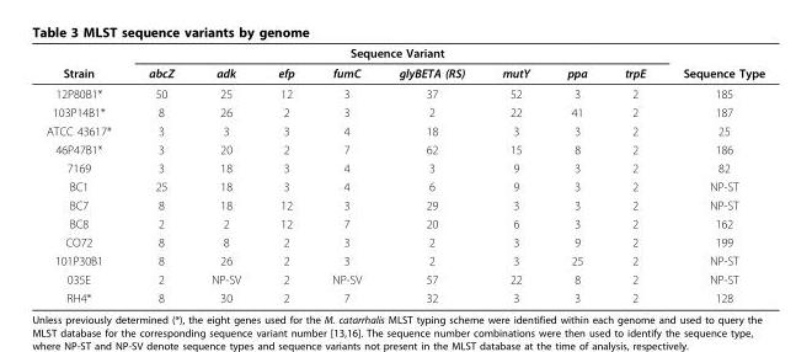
<table><thead><tr><td rowspan="2">Strain</td><td colspan="8">Sequence Variant</td><td rowspan="2">Sequence Type</td></tr><tr><td>abcZ</td><td>adk</td><td>efp</td><td>fumC</td><td>glyBETA (RS)</td><td>mutY</td><td>ppa</td><td>trpE</td></tr></thead><tbody><tr><td>12P80B1*</td><td>50</td><td>25</td><td>12</td><td>3</td><td>37</td><td>52</td><td>3</td><td>2</td><td>185</td></tr><tr><td>103P14B1*</td><td>8</td><td>26</td><td>2</td><td>3</td><td>2</td><td>22</td><td>41</td><td>2</td><td>187</td></tr><tr><td>ATCC 43617*</td><td>3</td><td>3</td><td>3</td><td>4</td><td>18</td><td>3</td><td>3</td><td>2</td><td>25</td></tr><tr><td>46P47B1*</td><td>3</td><td>20</td><td>2</td><td>7</td><td>62</td><td>15</td><td>8</td><td>2</td><td>186</td></tr><tr><td>7169</td><td>3</td><td>18</td><td>3</td><td>4</td><td>3</td><td>9</td><td>3</td><td>2</td><td>82</td></tr><tr><td>BC1</td><td>25</td><td>18</td><td>3</td><td>4</td><td>6</td><td>9</td><td>3</td><td>2</td><td>NP-ST</td></tr><tr><td>BC7</td><td>8</td><td>18</td><td>12</td><td>3</td><td>29</td><td>3</td><td>3</td><td>2</td><td>NP-ST</td></tr><tr><td>BC8</td><td>2</td><td>2</td><td>12</td><td>7</td><td>20</td><td>6</td><td>3</td><td>2</td><td>162</td></tr><tr><td>CO72</td><td>8</td><td>8</td><td>2</td><td>3</td><td>2</td><td>3</td><td>9</td><td>2</td><td>199</td></tr><tr><td>101P30B1</td><td>8</td><td>26</td><td>2</td><td>3</td><td>2</td><td>3</td><td>25</td><td>2</td><td>NP-ST</td></tr><tr><td>035E</td><td>2</td><td>NP-SV</td><td>2</td><td>NP-SV</td><td>57</td><td>22</td><td>8</td><td>2</td><td>NP-ST</td></tr><tr><td>RH4*</td><td>8</td><td>30</td><td>2</td><td>7</td><td>32</td><td>3</td><td>3</td><td>2</td><td>128</td></tr></tbody></table>